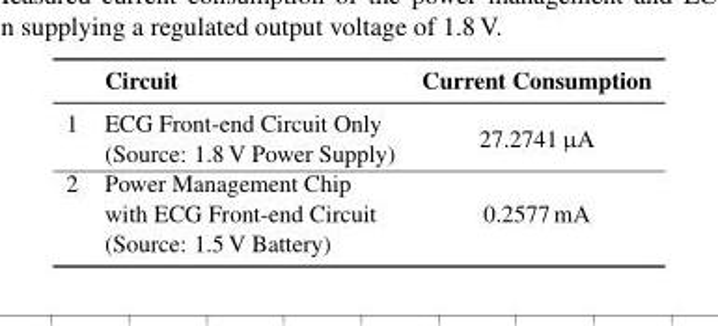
<table><thead><tr><td></td><td>Circuit</td><td>Current Consumption</td></tr></thead><tbody><tr><td>1</td><td>ECG Front-end Circuit Only (Source: 1.8 V Power Supply)</td><td>27.2741 µA</td></tr><tr><td>2</td><td>Power Management Chip with ECG Front-end Circuit (Source: 1.5 V Battery)</td><td>0.2577 mA</td></tr></tbody></table>